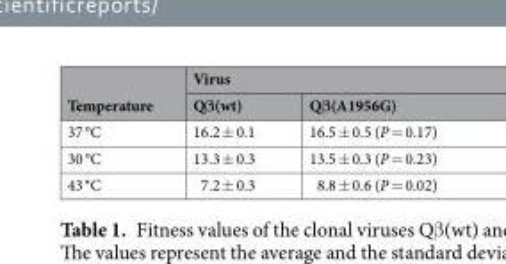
<table><thead><tr><td rowspan="2">Temperature</td><td colspan="2">Virus</td></tr><tr><td>Qβ(wt)</td><td>Qβ(A1956G)</td></tr></thead><tbody><tr><td>37 °C</td><td>16.2 ± 0.1</td><td>16.5 ± 0.5 (P = 0.17)</td></tr><tr><td>30 °C</td><td>13.3 ± 0.3</td><td>13.5 ± 0.3 (P = 0.23)</td></tr><tr><td>43 °C</td><td>7.2 ± 0.3</td><td>8.8 ± 0.6 (P = 0.02)</td></tr></tbody></table>